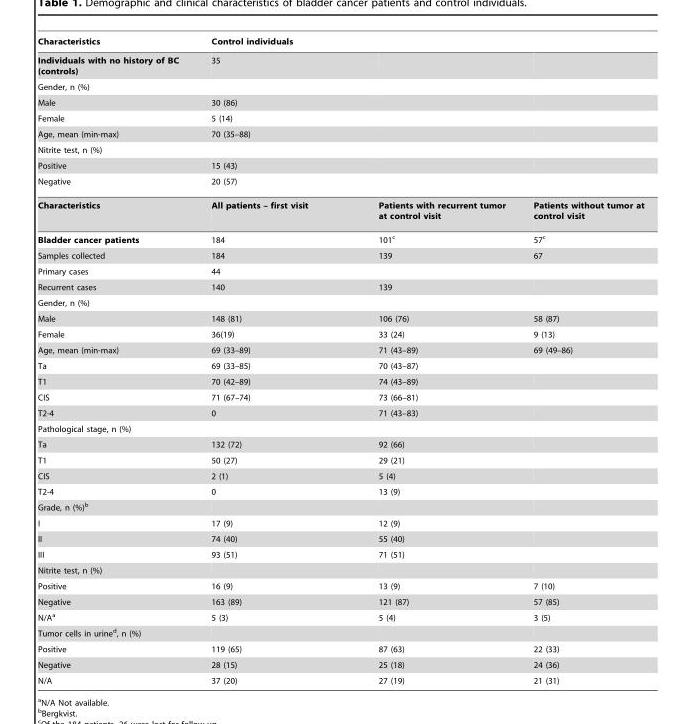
<table><thead><tr><td>Characteristics</td><td>Control individuals</td><td></td><td></td></tr></thead><tbody><tr><td>Individuals with no history of BC (controls)</td><td>35</td><td></td><td></td></tr><tr><td colspan="4">Gender, n (%)</td></tr><tr><td>Male</td><td>30 (86)</td><td></td><td></td></tr><tr><td>Female</td><td>5 (14)</td><td></td><td></td></tr><tr><td>Age, mean (min-max)</td><td>70 (35–88)</td><td></td><td></td></tr><tr><td colspan="4">Nitrite test, n (%)</td></tr><tr><td>Positive</td><td>15 (43)</td><td></td><td></td></tr><tr><td>Negative</td><td>20 (57)</td><td></td><td></td></tr><tr><td>Characteristics</td><td>All patients – first visit</td><td>Patients with recurrent tumor at control visit</td><td>Patients without tumor at control visit</td></tr><tr><td>Bladder cancer patients</td><td>184</td><td>101<sup>c</sup></td><td>57<sup>c</sup></td></tr><tr><td>Samples collected</td><td>184</td><td>139</td><td>67</td></tr><tr><td>Primary cases</td><td>44</td><td></td><td></td></tr><tr><td>Recurrent cases</td><td>140</td><td>139</td><td></td></tr><tr><td colspan="4">Gender, n (%)</td></tr><tr><td>Male</td><td>148 (81)</td><td>106 (76)</td><td>58 (87)</td></tr><tr><td>Female</td><td>36(19)</td><td>33 (24)</td><td>9 (13)</td></tr><tr><td>Age, mean (min-max)</td><td>69 (33–89)</td><td>71 (43–89)</td><td>69 (49–86)</td></tr><tr><td>Ta</td><td>69 (33–85)</td><td>70 (43–87)</td><td></td></tr><tr><td>T1</td><td>70 (42–89)</td><td>74 (43–89)</td><td></td></tr><tr><td>CIS</td><td>71 (67–74)</td><td>73 (66–81)</td><td></td></tr><tr><td>T2-4</td><td>0</td><td>71 (43–83)</td><td></td></tr><tr><td colspan="4">Pathological stage, n (%)</td></tr><tr><td>Ta</td><td>132 (72)</td><td>92 (66)</td><td></td></tr><tr><td>T1</td><td>50 (27)</td><td>29 (21)</td><td></td></tr><tr><td>CIS</td><td>2 (1)</td><td>5 (4)</td><td></td></tr><tr><td>T2-4</td><td>0</td><td>13 (9)</td><td></td></tr><tr><td colspan="4">Grade, n (%)<sup>b</sup></td></tr><tr><td>I</td><td>17 (9)</td><td>12 (9)</td><td></td></tr><tr><td>II</td><td>74 (40)</td><td>55 (40)</td><td></td></tr><tr><td>III</td><td>93 (51)</td><td>71 (51)</td><td></td></tr><tr><td colspan="4">Nitrite test, n (%)</td></tr><tr><td>Positive</td><td>16 (9)</td><td>13 (9)</td><td>7 (10)</td></tr><tr><td>Negative</td><td>163 (89)</td><td>121 (87)</td><td>57 (85)</td></tr><tr><td>N/A<sup>a</sup></td><td>5 (3)</td><td>5 (4)</td><td>3 (5)</td></tr><tr><td colspan="4">Tumor cells in urine<sup>d</sup>, n (%)</td></tr><tr><td>Positive</td><td>119 (65)</td><td>87 (63)</td><td>22 (33)</td></tr><tr><td>Negative</td><td>28 (15)</td><td>25 (18)</td><td>24 (36)</td></tr><tr><td>N/A</td><td>37 (20)</td><td>27 (19)</td><td>21 (31)</td></tr></tbody></table>